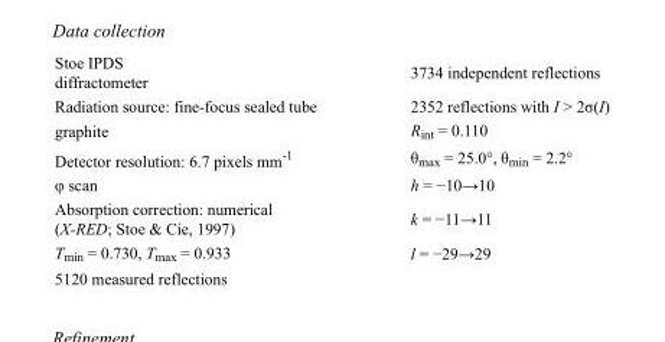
<table><tbody><tr><td>Stoe IPDS diffractometer</td><td>3734 independent reflections</td></tr><tr><td>Radiation source: fine-focus sealed tube</td><td>2352 reflections with I &gt; 2σ(I)</td></tr><tr><td>graphite</td><td>R<sub>int</sub> = 0.110</td></tr><tr><td>Detector resolution: 6.7 pixels mm<sup>-1</sup></td><td>θ<sub>max</sub> = 25.0°, θ<sub>min</sub> = 2.2°</td></tr><tr><td>φ scan</td><td>h = −10→10</td></tr><tr><td>Absorption correction: numerical (X-RED; Stoe &amp; Cie, 1997)</td><td>k = −11→11</td></tr><tr><td>T<sub>min</sub> = 0.730, T<sub>max</sub> = 0.933</td><td>l = −29→29</td></tr><tr><td>5120 measured reflections</td><td></td></tr></tbody></table>